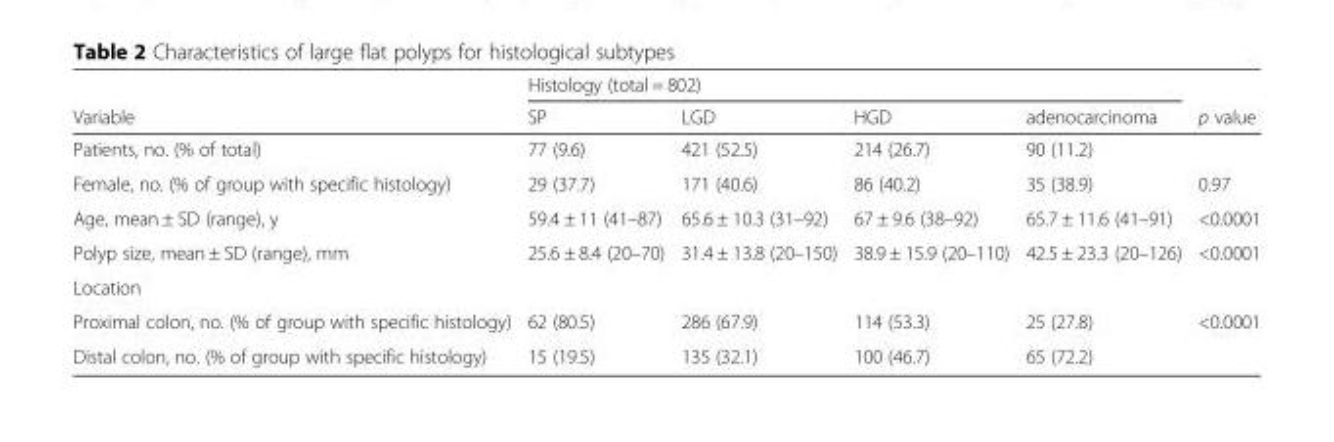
<table><thead><tr><td rowspan="2">Variable</td><td colspan="4">Histology (total = 802)</td><td rowspan="2">p value</td></tr><tr><td>SP</td><td>LGD</td><td>HGD</td><td>adenocarcinoma</td></tr></thead><tbody><tr><td>Patients, no. (% of total)</td><td>77 (9.6)</td><td>421 (52.5)</td><td>214 (26.7)</td><td>90 (11.2)</td><td></td></tr><tr><td>Female, no. (% of group with specific histology)</td><td>29 (37.7)</td><td>171 (40.6)</td><td>86 (40.2)</td><td>35 (38.9)</td><td>0.97</td></tr><tr><td>Age, mean ± SD (range), y</td><td>59.4 ± 11 (41–87)</td><td>65.6 ± 10.3 (31–92)</td><td>67 ± 9.6 (38–92)</td><td>65.7 ± 11.6 (41–91)</td><td>&lt;0.0001</td></tr><tr><td>Polyp size, mean ± SD (range), mm</td><td>25.6 ± 8.4 (20–70)</td><td>31.4 ± 13.8 (20–150)</td><td>38.9 ± 15.9 (20–110)</td><td>42.5 ± 23.3 (20–126)</td><td>&lt;0.0001</td></tr><tr><td colspan="6">Location</td></tr><tr><td>Proximal colon, no. (% of group with specific histology)</td><td>62 (80.5)</td><td>286 (67.9)</td><td>114 (53.3)</td><td>25 (27.8)</td><td rowspan="2">&lt;0.0001</td></tr><tr><td>Distal colon, no. (% of group with specific histology)</td><td>15 (19.5)</td><td>135 (32.1)</td><td>100 (46.7)</td><td>65 (72.2)</td></tr></tbody></table>